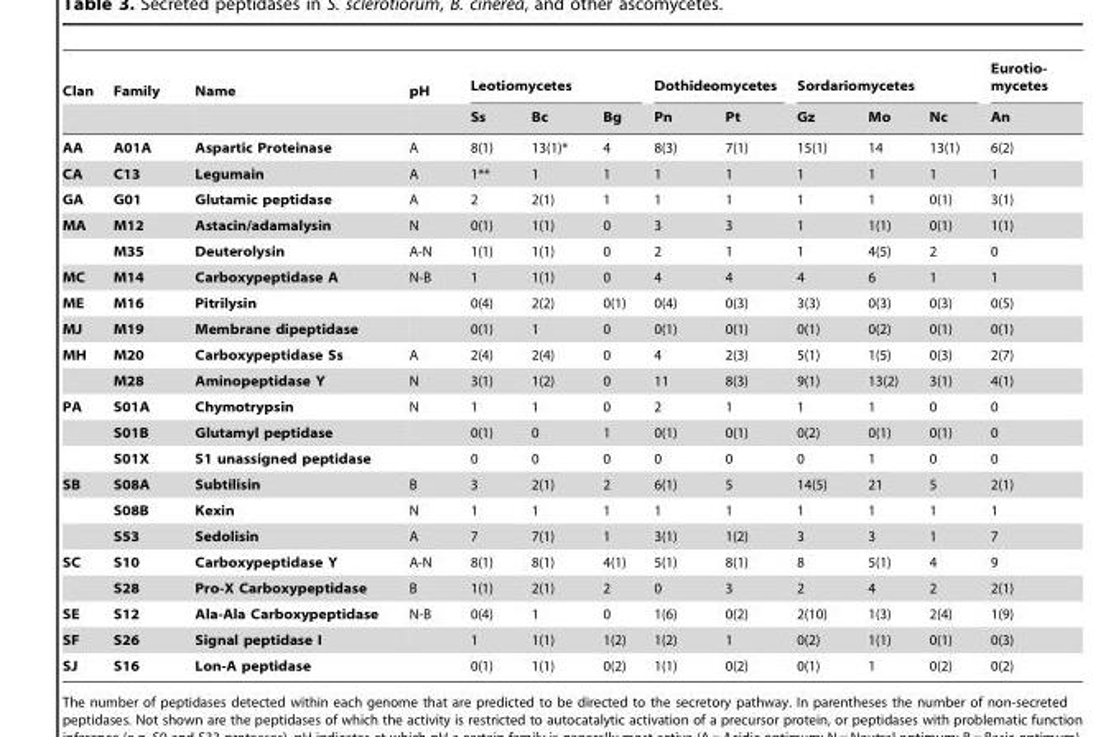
<table><thead><tr><td rowspan="2">Clan</td><td rowspan="2">Family</td><td rowspan="2">Name</td><td rowspan="2">pH</td><td colspan="3">Leotiomycetes</td><td colspan="2">Dothideomycetes</td><td colspan="3">Sordariomycetes</td><td rowspan="2">Eurotio- mycetes An</td></tr><tr><td>Ss</td><td>Bc</td><td>Bg</td><td>Pn</td><td>Pt</td><td>Gz</td><td>Mo</td><td>Nc</td></tr></thead><tbody><tr><td>AA</td><td>A01A</td><td>Aspartic Proteinase</td><td>A</td><td>8(1)</td><td>13(1)*</td><td>4</td><td>8(3)</td><td>7(1)</td><td>15(1)</td><td>14</td><td>13(1)</td><td>6(2)</td></tr><tr><td>CA</td><td>C13</td><td>Legumain</td><td>A</td><td>1**</td><td>1</td><td>1</td><td>1</td><td>1</td><td>1</td><td>1</td><td>1</td><td>1</td></tr><tr><td>GA</td><td>G01</td><td>Glutamic peptidase</td><td>A</td><td>2</td><td>2(1)</td><td>1</td><td>1</td><td>1</td><td>1</td><td>1</td><td>0(1)</td><td>3(1)</td></tr><tr><td rowspan="2">MA</td><td>M12</td><td>Astacin/adamalysin</td><td>N</td><td>0(1)</td><td>1(1)</td><td>0</td><td>3</td><td>3</td><td>1</td><td>1(1)</td><td>0(1)</td><td>1(1)</td></tr><tr><td>M35</td><td>Deuterolysin</td><td>A-N</td><td>1(1)</td><td>1(1)</td><td>0</td><td>2</td><td>1</td><td>1</td><td>4(5)</td><td>2</td><td>0</td></tr><tr><td>MC</td><td>M14</td><td>Carboxypeptidase A</td><td>N-B</td><td>1</td><td>1(1)</td><td>0</td><td>4</td><td>4</td><td>4</td><td>6</td><td>1</td><td>1</td></tr><tr><td>ME</td><td>M16</td><td>Pitrilysin</td><td></td><td>0(4)</td><td>2(2)</td><td>0(1)</td><td>0(4)</td><td>0(3)</td><td>3(3)</td><td>0(3)</td><td>0(3)</td><td>0(5)</td></tr><tr><td>MJ</td><td>M19</td><td>Membrane dipeptidase</td><td></td><td>0(1)</td><td>1</td><td>0</td><td>0(1)</td><td>0(1)</td><td>0(1)</td><td>0(2)</td><td>0(1)</td><td>0(1)</td></tr><tr><td rowspan="2">MH</td><td>M20</td><td>Carboxypeptidase Ss</td><td>A</td><td>2(4)</td><td>2(4)</td><td>0</td><td>4</td><td>2(3)</td><td>5(1)</td><td>1(5)</td><td>0(3)</td><td>2(7)</td></tr><tr><td>M28</td><td>Aminopeptidase Y</td><td>N</td><td>3(1)</td><td>1(2)</td><td>0</td><td>11</td><td>8(3)</td><td>9(1)</td><td>13(2)</td><td>3(1)</td><td>4(1)</td></tr><tr><td rowspan="3">PA</td><td>S01A</td><td>Chymotrypsin</td><td>N</td><td>1</td><td>1</td><td>0</td><td>2</td><td>1</td><td>1</td><td>1</td><td>0</td><td>0</td></tr><tr><td>S01B</td><td>Glutamyl peptidase</td><td></td><td>0(1)</td><td>0</td><td>1</td><td>0(1)</td><td>0(1)</td><td>0(2)</td><td>0(1)</td><td>0(1)</td><td>0</td></tr><tr><td>S01X</td><td>S1 unassigned peptidase</td><td></td><td>0</td><td>0</td><td>0</td><td>0</td><td>0</td><td>0</td><td>1</td><td>0</td><td>0</td></tr><tr><td rowspan="3">SB</td><td>S08A</td><td>Subtilisin</td><td>B</td><td>3</td><td>2(1)</td><td>2</td><td>6(1)</td><td>5</td><td>14(5)</td><td>21</td><td>5</td><td>2(1)</td></tr><tr><td>S08B</td><td>Kexin</td><td>N</td><td>1</td><td>1</td><td>1</td><td>1</td><td>1</td><td>1</td><td>1</td><td>1</td><td>1</td></tr><tr><td>S53</td><td>Sedolisin</td><td>A</td><td>7</td><td>7(1)</td><td>1</td><td>3(1)</td><td>1(2)</td><td>3</td><td>3</td><td>1</td><td>7</td></tr><tr><td rowspan="2">SC</td><td>S10</td><td>Carboxypeptidase Y</td><td>A-N</td><td>8(1)</td><td>8(1)</td><td>4(1)</td><td>5(1)</td><td>8(1)</td><td>8</td><td>5(1)</td><td>4</td><td>9</td></tr><tr><td>S28</td><td>Pro-X Carboxypeptidase</td><td>B</td><td>1(1)</td><td>2(1)</td><td>2</td><td>0</td><td>3</td><td>2</td><td>4</td><td>2</td><td>2(1)</td></tr><tr><td>SE</td><td>S12</td><td>Ala-Ala Carboxypeptidase</td><td>N-B</td><td>0(4)</td><td>1</td><td>0</td><td>1(6)</td><td>0(2)</td><td>2(10)</td><td>1(3)</td><td>2(4)</td><td>1(9)</td></tr><tr><td>SF</td><td>S26</td><td>Signal peptidase I</td><td></td><td>1</td><td>1(1)</td><td>1(2)</td><td>1(2)</td><td>1</td><td>0(2)</td><td>1(1)</td><td>0(1)</td><td>0(3)</td></tr><tr><td>SJ</td><td>S16</td><td>Lon-A peptidase</td><td></td><td>0(1)</td><td>1(1)</td><td>0(2)</td><td>1(1)</td><td>0(2)</td><td>0(1)</td><td>1</td><td>0(2)</td><td>0(2)</td></tr></tbody></table>